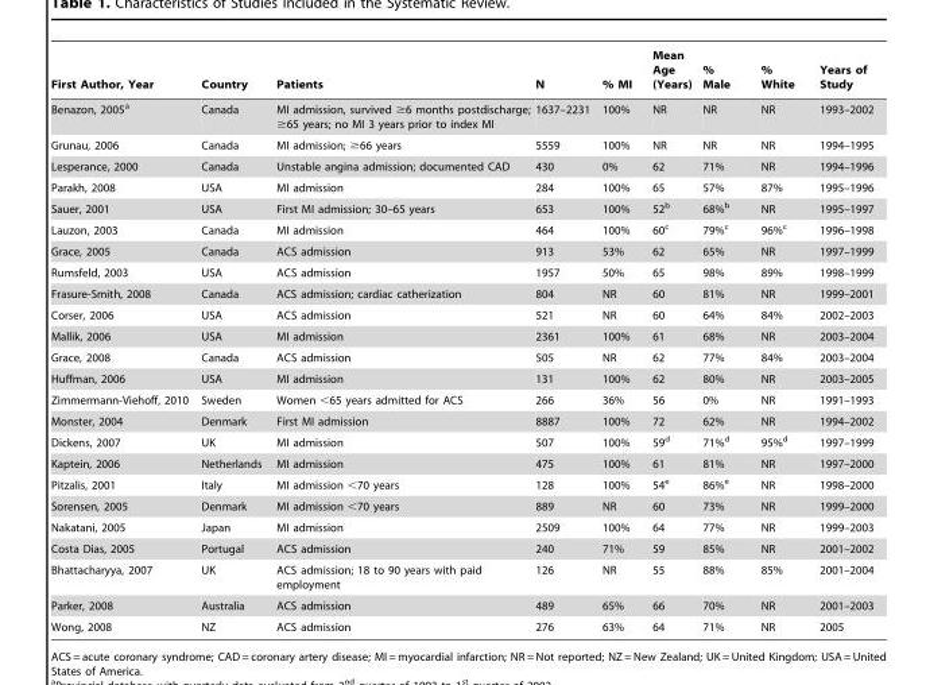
<table><thead><tr><td>First Author, Year</td><td>Country</td><td>Patients</td><td>N</td><td>% MI</td><td>Mean Age (Years)</td><td>% Male</td><td>% White</td><td>Years of Study</td></tr></thead><tbody><tr><td>Benazon, 2005<sup>a</sup></td><td>Canada</td><td>MI admission, survived ≥6 months postdischarge; ≥65 years; no MI 3 years prior to index MI</td><td>1637–2231</td><td>100%</td><td>NR</td><td>NR</td><td>NR</td><td>1993–2002</td></tr><tr><td>Grunau, 2006</td><td>Canada</td><td>MI admission; ≥66 years</td><td>5559</td><td>100%</td><td>NR</td><td>NR</td><td>NR</td><td>1994–1995</td></tr><tr><td>Lesperance, 2000</td><td>Canada</td><td>Unstable angina admission; documented CAD</td><td>430</td><td>0%</td><td>62</td><td>71%</td><td>NR</td><td>1994–1996</td></tr><tr><td>Parakh, 2008</td><td>USA</td><td>MI admission</td><td>284</td><td>100%</td><td>65</td><td>57%</td><td>87%</td><td>1995–1996</td></tr><tr><td>Sauer, 2001</td><td>USA</td><td>First MI admission; 30–65 years</td><td>653</td><td>100%</td><td>52<sup>b</sup></td><td>68%<sup>b</sup></td><td>NR</td><td>1995–1997</td></tr><tr><td>Lauzon, 2003</td><td>Canada</td><td>MI admission</td><td>464</td><td>100%</td><td>60<sup>c</sup></td><td>79%<sup>c</sup></td><td>96%<sup>c</sup></td><td>1996–1998</td></tr><tr><td>Grace, 2005</td><td>Canada</td><td>ACS admission</td><td>913</td><td>53%</td><td>62</td><td>65%</td><td>NR</td><td>1997–1999</td></tr><tr><td>Rumsfeld, 2003</td><td>USA</td><td>ACS admission</td><td>1957</td><td>50%</td><td>65</td><td>98%</td><td>89%</td><td>1998–1999</td></tr><tr><td>Frasure-Smith, 2008</td><td>Canada</td><td>ACS admission; cardiac catherization</td><td>804</td><td>NR</td><td>60</td><td>81%</td><td>NR</td><td>1999–2001</td></tr><tr><td>Corser, 2006</td><td>USA</td><td>ACS admission</td><td>521</td><td>NR</td><td>60</td><td>64%</td><td>84%</td><td>2002–2003</td></tr><tr><td>Mallik, 2006</td><td>USA</td><td>MI admission</td><td>2361</td><td>100%</td><td>61</td><td>68%</td><td>NR</td><td>2003–2004</td></tr><tr><td>Grace, 2008</td><td>Canada</td><td>ACS admission</td><td>505</td><td>NR</td><td>62</td><td>77%</td><td>84%</td><td>2003–2004</td></tr><tr><td>Huffman, 2006</td><td>USA</td><td>MI admission</td><td>131</td><td>100%</td><td>62</td><td>80%</td><td>NR</td><td>2003–2005</td></tr><tr><td>Zimmermann-Viehoff, 2010</td><td>Sweden</td><td>Women &lt;65 years admitted for ACS</td><td>266</td><td>36%</td><td>56</td><td>0%</td><td>NR</td><td>1991–1993</td></tr><tr><td>Monster, 2004</td><td>Denmark</td><td>First MI admission</td><td>8887</td><td>100%</td><td>72</td><td>62%</td><td>NR</td><td>1994–2002</td></tr><tr><td>Dickens, 2007</td><td>UK</td><td>MI admission</td><td>507</td><td>100%</td><td>59<sup>d</sup></td><td>71%<sup>d</sup></td><td>95%<sup>d</sup></td><td>1997–1999</td></tr><tr><td>Kaptein, 2006</td><td>Netherlands</td><td>MI admission</td><td>475</td><td>100%</td><td>61</td><td>81%</td><td>NR</td><td>1997–2000</td></tr><tr><td>Pitzalis, 2001</td><td>Italy</td><td>MI admission &lt;70 years</td><td>128</td><td>100%</td><td>54<sup>e</sup></td><td>86%<sup>e</sup></td><td>NR</td><td>1998–2000</td></tr><tr><td>Sorensen, 2005</td><td>Denmark</td><td>MI admission &lt;70 years</td><td>889</td><td>NR</td><td>60</td><td>73%</td><td>NR</td><td>1999–2000</td></tr><tr><td>Nakatani, 2005</td><td>Japan</td><td>MI admission</td><td>2509</td><td>100%</td><td>64</td><td>77%</td><td>NR</td><td>1999–2003</td></tr><tr><td>Costa Dias, 2005</td><td>Portugal</td><td>ACS admission</td><td>240</td><td>71%</td><td>59</td><td>85%</td><td>NR</td><td>2001–2002</td></tr><tr><td>Bhattacharyya, 2007</td><td>UK</td><td>ACS admission; 18 to 90 years with paid employment</td><td>126</td><td>NR</td><td>55</td><td>88%</td><td>85%</td><td>2001–2004</td></tr><tr><td>Parker, 2008</td><td>Australia</td><td>ACS admission</td><td>489</td><td>65%</td><td>66</td><td>70%</td><td>NR</td><td>2001–2003</td></tr><tr><td>Wong, 2008</td><td>NZ</td><td>ACS admission</td><td>276</td><td>63%</td><td>64</td><td>71%</td><td>NR</td><td>2005</td></tr></tbody></table>